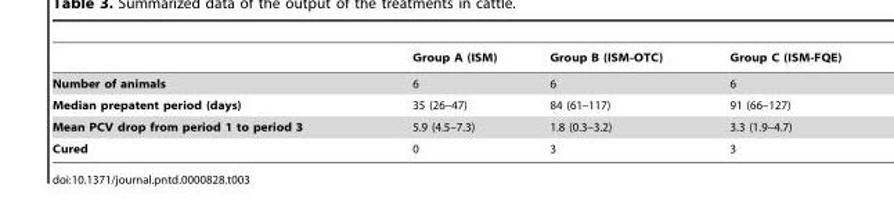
<table><thead><tr><td></td><td>Group A (ISM)</td><td>Group B (ISM-OTC)</td><td>Group C (ISM-FQE)</td></tr></thead><tbody><tr><td>Number of animals</td><td>6</td><td>6</td><td>6</td></tr><tr><td>Median prepatent period (days)</td><td>35 (26–47)</td><td>84 (61–117)</td><td>91 (66–127)</td></tr><tr><td>Mean PCV drop from period 1 to period 3</td><td>5.9 (4.5–7.3)</td><td>1.8 (0.3–3.2)</td><td>3.3 (1.9–4.7)</td></tr><tr><td>Cured</td><td>0</td><td>3</td><td>3</td></tr></tbody></table>